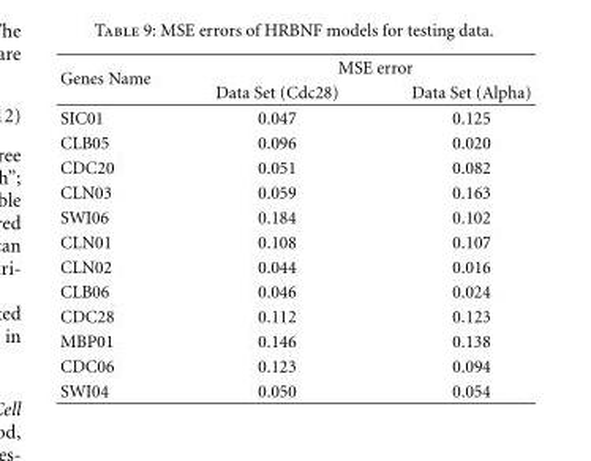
<table><thead><tr><td rowspan="2">Genes Name</td><td colspan="2">MSE error</td></tr><tr><td>Data Set (Cdc28)</td><td>Data Set (Alpha)</td></tr></thead><tbody><tr><td>SIC01</td><td>0.047</td><td>0.125</td></tr><tr><td>CLB05</td><td>0.096</td><td>0.020</td></tr><tr><td>CDC20</td><td>0.051</td><td>0.082</td></tr><tr><td>CLN03</td><td>0.059</td><td>0.163</td></tr><tr><td>SWI06</td><td>0.184</td><td>0.102</td></tr><tr><td>CLN01</td><td>0.108</td><td>0.107</td></tr><tr><td>CLN02</td><td>0.044</td><td>0.016</td></tr><tr><td>CLB06</td><td>0.046</td><td>0.024</td></tr><tr><td>CDC28</td><td>0.112</td><td>0.123</td></tr><tr><td>MBP01</td><td>0.146</td><td>0.138</td></tr><tr><td>CDC06</td><td>0.123</td><td>0.094</td></tr><tr><td>SWI04</td><td>0.050</td><td>0.054</td></tr></tbody></table>